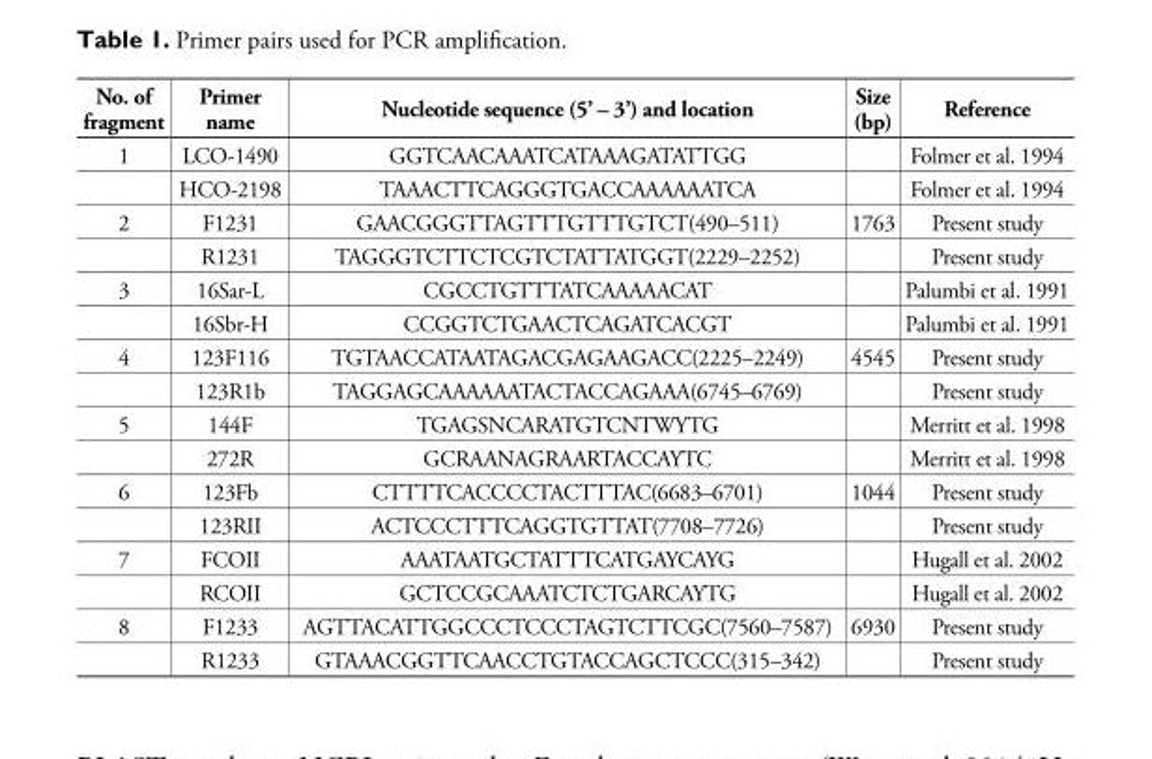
<table><thead><tr><td>No. of fragment</td><td>Primer name</td><td>Nucleotide sequence (5’ – 3’) and location</td><td>Size (bp)</td><td>Reference</td></tr></thead><tbody><tr><td rowspan="2">1</td><td>LCO-1490</td><td>GGTCAACAAATCATAAAGATATTGG</td><td></td><td>Folmer et al. 1994</td></tr><tr><td>HCO-2198</td><td>TAAACTTCAGGGTGACCAAAAAATCA</td><td></td><td>Folmer et al. 1994</td></tr><tr><td rowspan="2">2</td><td>F1231</td><td>GAACGGGTTAGTTTGTTTGTCT(490–511)</td><td>1763</td><td>Present study</td></tr><tr><td>R1231</td><td>TAGGGTCTTCTCGTCTATTATGGT(2229–2252)</td><td></td><td>Present study</td></tr><tr><td rowspan="2">3</td><td>16Sar-L</td><td>CGCCTGTTTATCAAAAACAT</td><td></td><td>Palumbi et al. 1991</td></tr><tr><td>16Sbr-H</td><td>CCGGTCTGAACTCAGATCACGT</td><td></td><td>Palumbi et al. 1991</td></tr><tr><td rowspan="2">4</td><td>123F116</td><td>TGTAACCATAATAGACGAGAAGACC(2225–2249)</td><td>4545</td><td>Present study</td></tr><tr><td>123R1b</td><td>TAGGAGCAAAAAATACTACCAGAAA(6745–6769)</td><td></td><td>Present study</td></tr><tr><td rowspan="2">5</td><td>144F</td><td>TGAGSNCARATGTCNTWYTG</td><td></td><td>Merritt et al. 1998</td></tr><tr><td>272R</td><td>GCRAANAGRAARTACCAYTC</td><td></td><td>Merritt et al. 1998</td></tr><tr><td rowspan="2">6</td><td>123Fb</td><td>CTTTTCACCCCTACTTTAC(6683–6701)</td><td>1044</td><td>Present study</td></tr><tr><td>123RII</td><td>ACTCCCTTTCAGGTGTTAT(7708–7726)</td><td></td><td>Present study</td></tr><tr><td rowspan="2">7</td><td>FCOII</td><td>AAATAATGCTATTTCATGAYCAYG</td><td></td><td>Hugall et al. 2002</td></tr><tr><td>RCOII</td><td>GCTCCGCAAATCTCTGARCAYTG</td><td></td><td>Hugall et al. 2002</td></tr><tr><td rowspan="2">8</td><td>F1233</td><td>AGTTACATTGGCCCTCCCTAGTCTTCGC(7560–7587)</td><td>6930</td><td>Present study</td></tr><tr><td>R1233</td><td>GTAAACGGTTCAACCTGTACCAGCTCCC(315–342)</td><td></td><td>Present study</td></tr></tbody></table>